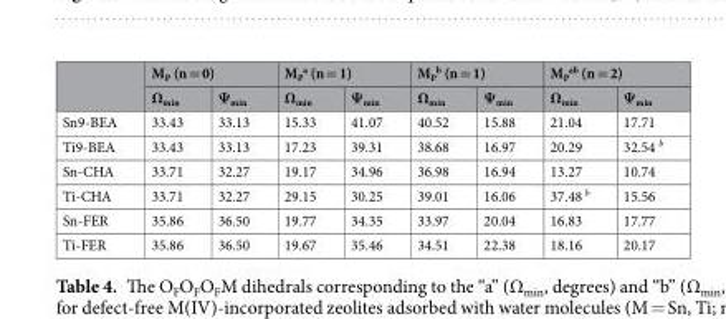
<table><thead><tr><td rowspan="2"></td><td colspan="2">M<sub>P</sub> (n = 0)</td><td colspan="2">M<sub>P</sub> <sup>a</sup> (n = 1)</td><td colspan="2">M<sub>P</sub> <sup>b</sup> (n = 1)</td><td colspan="2">M<sub>P</sub> <sup>ab</sup> (n = 2)</td></tr><tr><td>Ω<sub>min</sub></td><td>Ψ<sub>min</sub></td><td>Ω<sub>min</sub></td><td>Ψ<sub>min</sub></td><td>Ω<sub>min</sub></td><td>Ψ<sub>min</sub></td><td>Ω<sub>min</sub></td><td>Ψ<sub>min</sub></td></tr></thead><tbody><tr><td>Sn9-BEA</td><td>33.43</td><td>33.13</td><td>15.33</td><td>41.07</td><td>40.52</td><td>15.88</td><td>21.04</td><td>17.71</td></tr><tr><td>Ti9-BEA</td><td>33.43</td><td>33.13</td><td>17.23</td><td>39.31</td><td>38.68</td><td>16.97</td><td>20.29</td><td>32.54 <sup>b</sup></td></tr><tr><td>Sn-CHA</td><td>33.71</td><td>32.27</td><td>19.17</td><td>34.96</td><td>36.98</td><td>16.94</td><td>13.27</td><td>10.74</td></tr><tr><td>Ti-CHA</td><td>33.71</td><td>32.27</td><td>29.15</td><td>30.25</td><td>39.01</td><td>16.06</td><td>37.48 <sup>b</sup></td><td>15.56</td></tr><tr><td>Sn-FER</td><td>35.86</td><td>36.50</td><td>19.77</td><td>34.35</td><td>33.97</td><td>20.04</td><td>16.83</td><td>17.77</td></tr><tr><td>Ti-FER</td><td>35.86</td><td>36.50</td><td>19.67</td><td>35.46</td><td>34.51</td><td>22.38</td><td>18.16</td><td>20.17</td></tr></tbody></table>